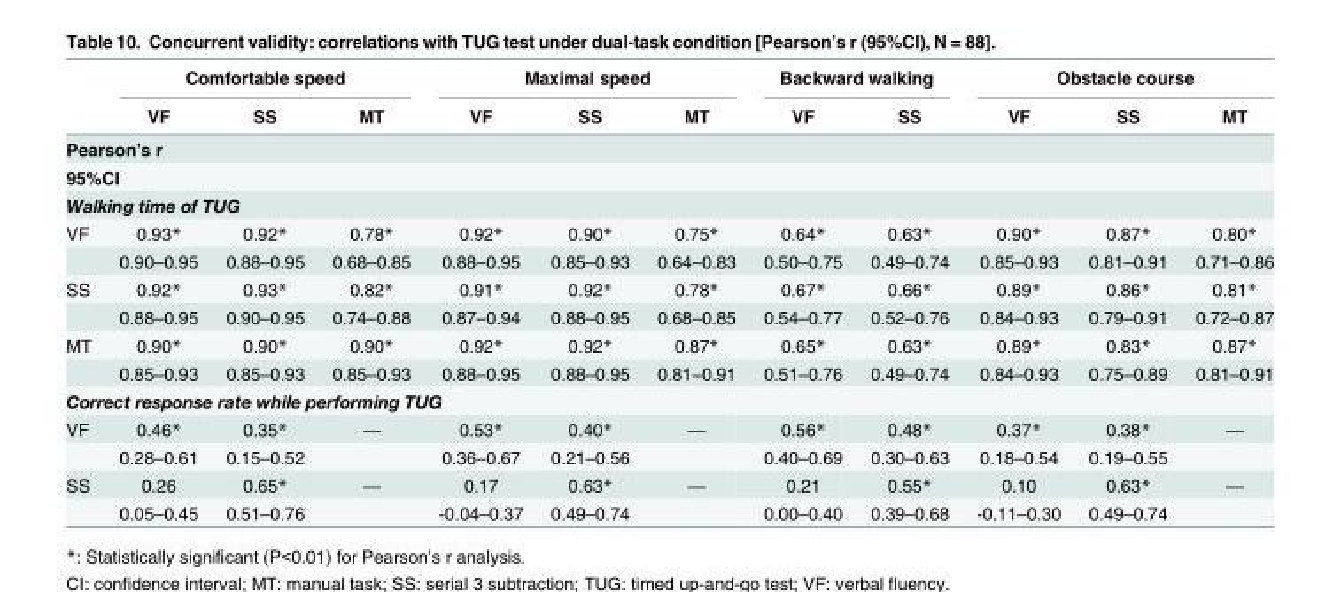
<table><thead><tr><td rowspan="2"></td><td colspan="3">Comfortable speed</td><td colspan="3">Maximal speed</td><td colspan="2">Backward walking</td><td colspan="3">Obstacle course</td></tr><tr><td>VF</td><td>SS</td><td>MT</td><td>VF</td><td>SS</td><td>MT</td><td>VF</td><td>SS</td><td>VF</td><td>SS</td><td>MT</td></tr></thead><tbody><tr><td colspan="12">Pearson’s r</td></tr><tr><td colspan="12">95%CI</td></tr><tr><td colspan="12">Walking time of TUG</td></tr><tr><td rowspan="2">VF</td><td>0.93*</td><td>0.92*</td><td>0.78*</td><td>0.92*</td><td>0.90*</td><td>0.75*</td><td>0.64*</td><td>0.63*</td><td>0.90*</td><td>0.87*</td><td>0.80*</td></tr><tr><td>0.90–0.95</td><td>0.88–0.95</td><td>0.68–0.85</td><td>0.88–0.95</td><td>0.85–0.93</td><td>0.64–0.83</td><td>0.50–0.75</td><td>0.49–0.74</td><td>0.85–0.93</td><td>0.81–0.91</td><td>0.71–0.86</td></tr><tr><td rowspan="2">SS</td><td>0.92*</td><td>0.93*</td><td>0.82*</td><td>0.91*</td><td>0.92*</td><td>0.78*</td><td>0.67*</td><td>0.66*</td><td>0.89*</td><td>0.86*</td><td>0.81*</td></tr><tr><td>0.88–0.95</td><td>0.90–0.95</td><td>0.74–0.88</td><td>0.87–0.94</td><td>0.88–0.95</td><td>0.68–0.85</td><td>0.54–0.77</td><td>0.52–0.76</td><td>0.84–0.93</td><td>0.79–0.91</td><td>0.72–0.87</td></tr><tr><td rowspan="2">MT</td><td>0.90*</td><td>0.90*</td><td>0.90*</td><td>0.92*</td><td>0.92*</td><td>0.87*</td><td>0.65*</td><td>0.63*</td><td>0.89*</td><td>0.83*</td><td>0.87*</td></tr><tr><td>0.85–0.93</td><td>0.85–0.93</td><td>0.85–0.93</td><td>0.88–0.95</td><td>0.88–0.95</td><td>0.81–0.91</td><td>0.51–0.76</td><td>0.49–0.74</td><td>0.84–0.93</td><td>0.75–0.89</td><td>0.81–0.91</td></tr><tr><td colspan="12">Correct response rate while performing TUG</td></tr><tr><td rowspan="2">VF</td><td>0.46*</td><td>0.35*</td><td>—</td><td>0.53*</td><td>0.40*</td><td>—</td><td>0.56*</td><td>0.48*</td><td>0.37*</td><td>0.38*</td><td>—</td></tr><tr><td>0.28–0.61</td><td>0.15–0.52</td><td></td><td>0.36–0.67</td><td>0.21–0.56</td><td></td><td>0.40–0.69</td><td>0.30–0.63</td><td>0.18–0.54</td><td>0.19–0.55</td><td></td></tr><tr><td rowspan="2">SS</td><td>0.26</td><td>0.65*</td><td>—</td><td>0.17</td><td>0.63*</td><td>—</td><td>0.21</td><td>0.55*</td><td>0.10</td><td>0.63*</td><td>—</td></tr><tr><td>0.05–0.45</td><td>0.51–0.76</td><td></td><td>-0.04–0.37</td><td>0.49–0.74</td><td></td><td>0.00–0.40</td><td>0.39–0.68</td><td>-0.11–0.30</td><td>0.49–0.74</td><td></td></tr></tbody></table>